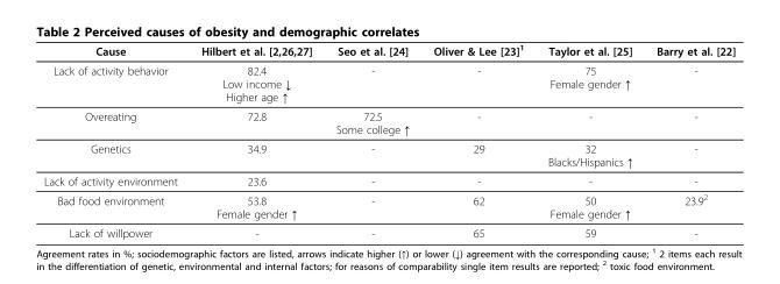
<table><thead><tr><td>Cause</td><td>Hilbert et al. [2,26,27]</td><td>Seo et al. [24]</td><td>Oliver &amp; Lee [23]<sup>1</sup></td><td>Taylor et al. [25]</td><td>Barry et al. [22]</td></tr></thead><tbody><tr><td>Lack of activity behavior</td><td>82.4 Low income ↓ Higher age ↑</td><td>-</td><td>-</td><td>75 Female gender ↑</td><td>-</td></tr><tr><td>Overeating</td><td>72.8</td><td>72.5 Some college ↑</td><td>-</td><td>-</td><td>-</td></tr><tr><td>Genetics</td><td>34.9</td><td>-</td><td>29</td><td>32 Blacks/Hispanics ↑</td><td>-</td></tr><tr><td>Lack of activity environment</td><td>23.6</td><td>-</td><td>-</td><td>-</td><td>-</td></tr><tr><td>Bad food environment</td><td>53.8 Female gender ↑</td><td>-</td><td>62</td><td>50 Female gender ↑</td><td>23.9<sup>2</sup></td></tr><tr><td>Lack of willpower</td><td>-</td><td>-</td><td>65</td><td>59</td><td>-</td></tr></tbody></table>